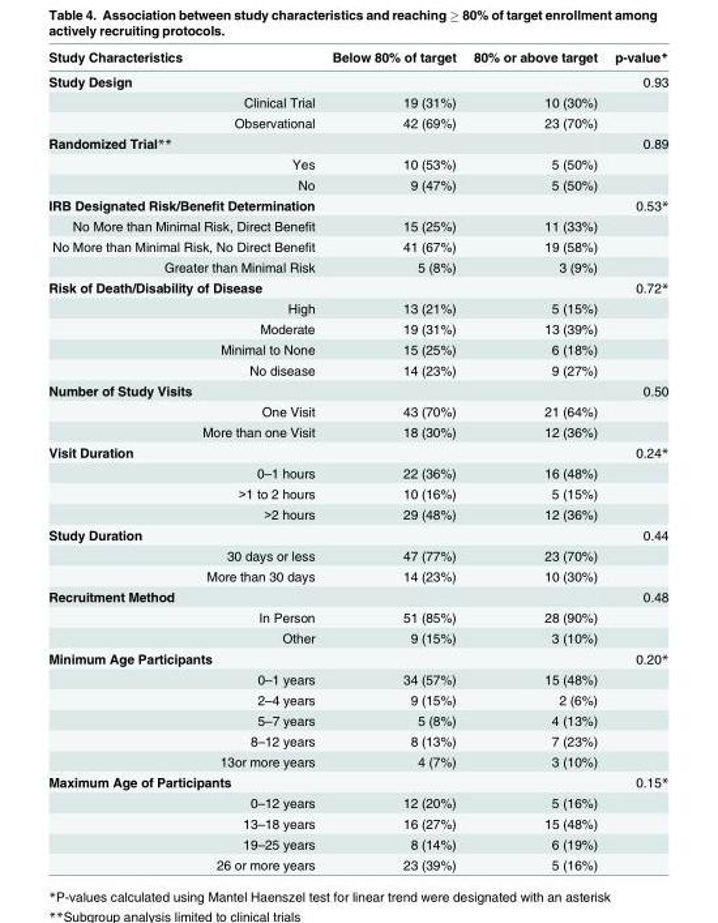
<table><thead><tr><td>Study Characteristics</td><td>Below 80% of target</td><td>80% or above target</td><td>p-value*</td></tr></thead><tbody><tr><td>Study Design</td><td></td><td></td><td>0.93</td></tr><tr><td>Clinical Trial</td><td>19 (31%)</td><td>10 (30%)</td><td></td></tr><tr><td>Observational</td><td>42 (69%)</td><td>23 (70%)</td><td></td></tr><tr><td>Randomized Trial**</td><td></td><td></td><td>0.89</td></tr><tr><td>Yes</td><td>10 (53%)</td><td>5 (50%)</td><td></td></tr><tr><td>No</td><td>9 (47%)</td><td>5 (50%)</td><td></td></tr><tr><td>IRB Designated Risk/Benefit Determination</td><td></td><td></td><td>0.53*</td></tr><tr><td>No More than Minimal Risk, Direct Benefit</td><td>15 (25%)</td><td>11 (33%)</td><td></td></tr><tr><td>No More than Minimal Risk, No Direct Benefit</td><td>41 (67%)</td><td>19 (58%)</td><td></td></tr><tr><td>Greater than Minimal Risk</td><td>5 (8%)</td><td>3 (9%)</td><td></td></tr><tr><td>Risk of Death/Disability of Disease</td><td></td><td></td><td>0.72*</td></tr><tr><td>High</td><td>13 (21%)</td><td>5 (15%)</td><td></td></tr><tr><td>Moderate</td><td>19 (31%)</td><td>13 (39%)</td><td></td></tr><tr><td>Minimal to None</td><td>15 (25%)</td><td>6 (18%)</td><td></td></tr><tr><td>No disease</td><td>14 (23%)</td><td>9 (27%)</td><td></td></tr><tr><td>Number of Study Visits</td><td></td><td></td><td>0.50</td></tr><tr><td>One Visit</td><td>43 (70%)</td><td>21 (64%)</td><td></td></tr><tr><td>More than one Visit</td><td>18 (30%)</td><td>12 (36%)</td><td></td></tr><tr><td>Visit Duration</td><td></td><td></td><td>0.24*</td></tr><tr><td>0–1 hours</td><td>22 (36%)</td><td>16 (48%)</td><td></td></tr><tr><td>&gt;1 to 2 hours</td><td>10 (16%)</td><td>5 (15%)</td><td></td></tr><tr><td>&gt;2 hours</td><td>29 (48%)</td><td>12 (36%)</td><td></td></tr><tr><td>Study Duration</td><td></td><td></td><td>0.44</td></tr><tr><td>30 days or less</td><td>47 (77%)</td><td>23 (70%)</td><td></td></tr><tr><td>More than 30 days</td><td>14 (23%)</td><td>10 (30%)</td><td></td></tr><tr><td>Recruitment Method</td><td></td><td></td><td>0.48</td></tr><tr><td>In Person</td><td>51 (85%)</td><td>28 (90%)</td><td></td></tr><tr><td>Other</td><td>9 (15%)</td><td>3 (10%)</td><td></td></tr><tr><td>Minimum Age Participants</td><td></td><td></td><td>0.20*</td></tr><tr><td>0–1 years</td><td>34 (57%)</td><td>15 (48%)</td><td></td></tr><tr><td>2–4 years</td><td>9 (15%)</td><td>2 (6%)</td><td></td></tr><tr><td>5–7 years</td><td>5 (8%)</td><td>4 (13%)</td><td></td></tr><tr><td>8–12 years</td><td>8 (13%)</td><td>7 (23%)</td><td></td></tr><tr><td>13or more years</td><td>4 (7%)</td><td>3 (10%)</td><td></td></tr><tr><td>Maximum Age of Participants</td><td></td><td></td><td>0.15*</td></tr><tr><td>0–12 years</td><td>12 (20%)</td><td>5 (16%)</td><td></td></tr><tr><td>13–18 years</td><td>16 (27%)</td><td>15 (48%)</td><td></td></tr><tr><td>19–25 years</td><td>8 (14%)</td><td>6 (19%)</td><td></td></tr><tr><td>26 or more years</td><td>23 (39%)</td><td>5 (16%)</td><td></td></tr></tbody></table>